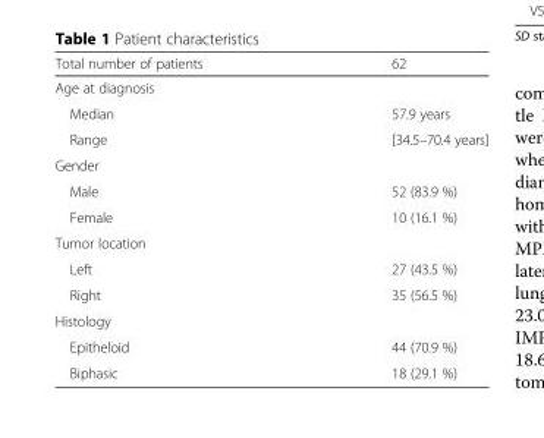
<table><thead><tr><td>Total number of patients</td><td>62</td></tr></thead><tbody><tr><td colspan="2">Age at diagnosis</td></tr><tr><td>Median</td><td>57.9 years</td></tr><tr><td>Range</td><td>[34.5–70.4 years]</td></tr><tr><td colspan="2">Gender</td></tr><tr><td>Male</td><td>52 (83.9 %)</td></tr><tr><td>Female</td><td>10 (16.1 %)</td></tr><tr><td colspan="2">Tumor location</td></tr><tr><td>Left</td><td>27 (43.5 %)</td></tr><tr><td>Right</td><td>35 (56.5 %)</td></tr><tr><td colspan="2">Histology</td></tr><tr><td>Epitheloid</td><td>44 (70.9 %)</td></tr><tr><td>Biphasic</td><td>18 (29.1 %)</td></tr></tbody></table>